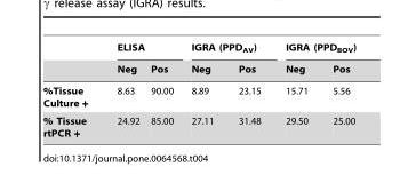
<table><thead><tr><td rowspan="2"></td><td colspan="2">ELISA</td><td colspan="2">IGRA (PPD<sub>AV</sub>)</td><td colspan="2">IGRA (PPD<sub>BOV</sub>)</td></tr><tr><td>Neg</td><td>Pos</td><td>Neg</td><td>Pos</td><td>Neg</td><td>Pos</td></tr></thead><tbody><tr><td>%Tissue Culture +</td><td>8.63</td><td>90.00</td><td>8.89</td><td>23.15</td><td>15.71</td><td>5.56</td></tr><tr><td>% Tissue rtPCR +</td><td>24.92</td><td>85.00</td><td>27.11</td><td>31.48</td><td>29.50</td><td>25.00</td></tr></tbody></table>